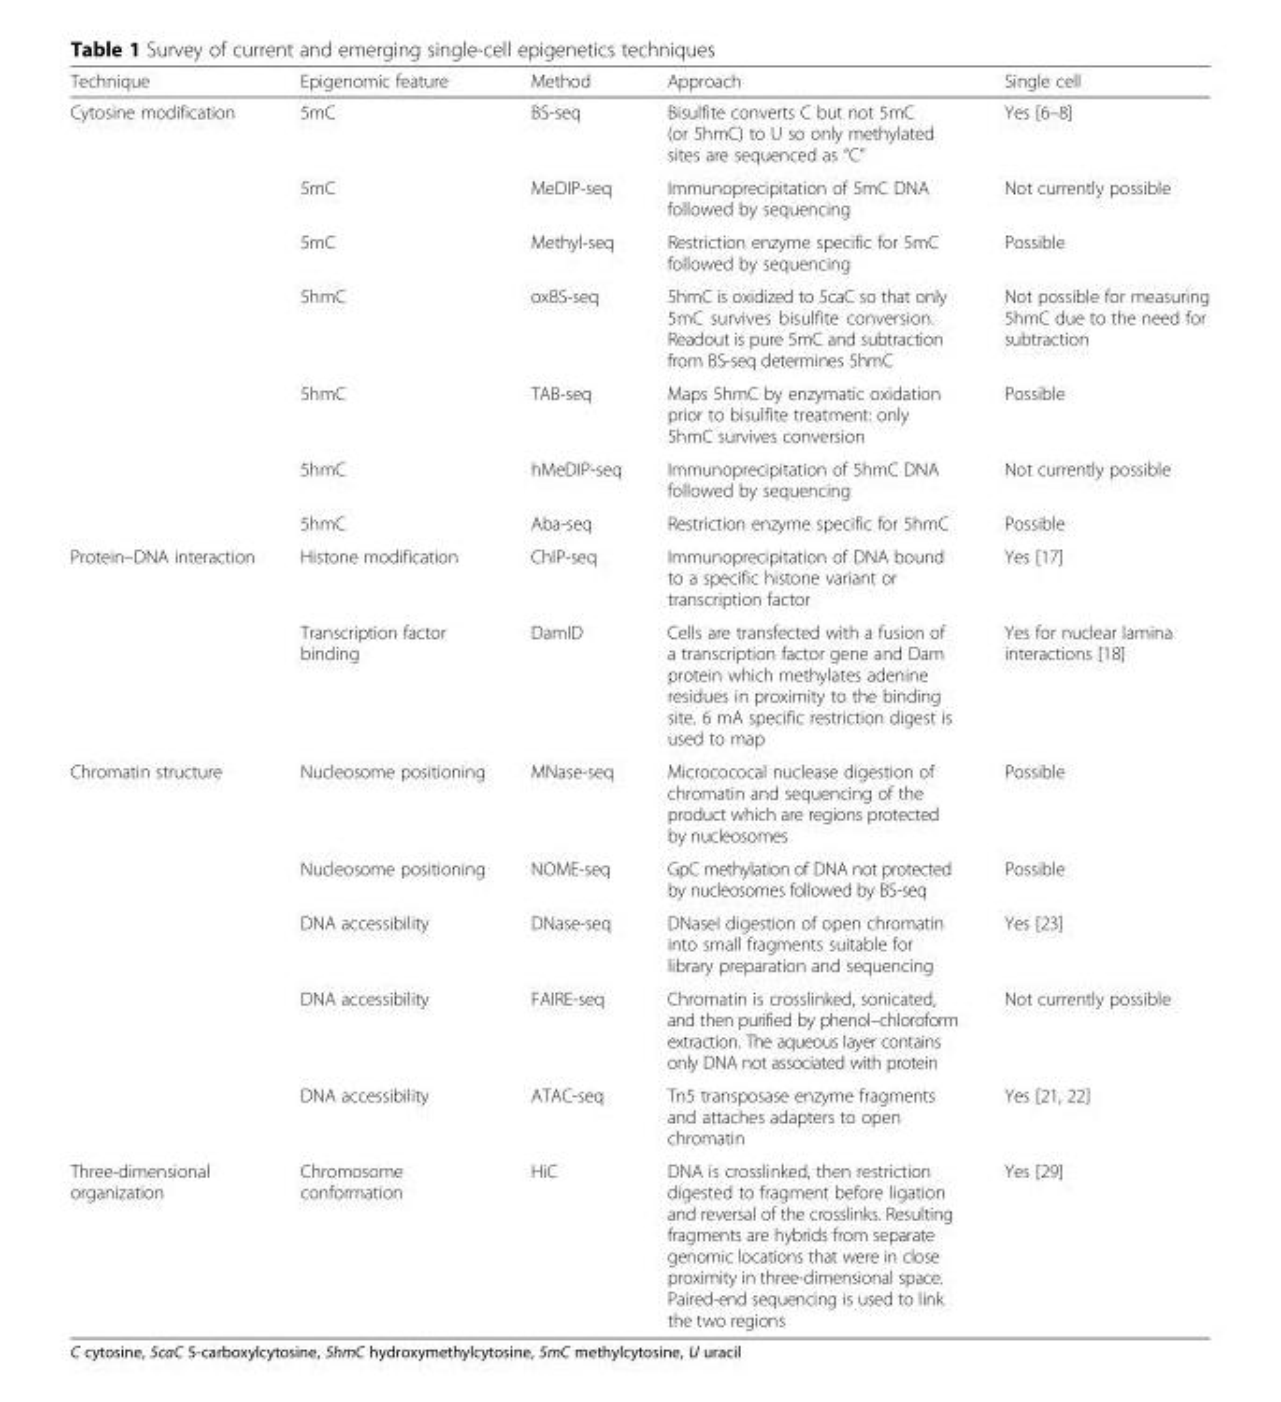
<table><thead><tr><td>Technique</td><td>Epigenomic feature</td><td>Method</td><td>Approach</td><td>Single cell</td></tr></thead><tbody><tr><td rowspan="7">Cytosine modification</td><td>5mC</td><td>BS-seq</td><td>Bisulfite converts C but not 5mC (or 5hmC) to U so only methylated sites are sequenced as “C”</td><td>Yes [6–8]</td></tr><tr><td>5mC</td><td>MeDIP-seq</td><td>Immunoprecipitation of 5mC DNA followed by sequencing</td><td>Not currently possible</td></tr><tr><td>5mC</td><td>Methyl-seq</td><td>Restriction enzyme specific for 5mC followed by sequencing</td><td>Possible</td></tr><tr><td>5hmC</td><td>oxBS-seq</td><td>5hmC is oxidized to 5caC so that only 5mC survives bisulfite conversion. Readout is pure 5mC and subtraction from BS-seq determines 5hmC</td><td>Not possible for measuring 5hmC due to the need for subtraction</td></tr><tr><td>5hmC</td><td>TAB-seq</td><td>Maps 5hmC by enzymatic oxidation prior to bisulfite treatment: only 5hmC survives conversion</td><td>Possible</td></tr><tr><td>5hmC</td><td>hMeDIP-seq</td><td>Immunoprecipitation of 5hmC DNA followed by sequencing</td><td>Not currently possible</td></tr><tr><td>5hmC</td><td>Aba-seq</td><td>Restriction enzyme specific for 5hmC</td><td>Possible</td></tr><tr><td rowspan="2">Protein–DNA interaction</td><td>Histone modification</td><td>ChIP-seq</td><td>Immunoprecipitation of DNA bound to a specific histone variant or transcription factor</td><td>Yes [17]</td></tr><tr><td>Transcription factor binding</td><td>DamID</td><td>Cells are transfected with a fusion of a transcription factor gene and Dam protein which methylates adenine residues in proximity to the binding site. 6 mA specific restriction digest is used to map</td><td>Yes for nuclear lamina interactions [18]</td></tr><tr><td rowspan="5">Chromatin structure</td><td>Nucleosome positioning</td><td>MNase-seq</td><td>Microcococal nuclease digestion of chromatin and sequencing of the product which are regions protected by nucleosomes</td><td>Possible</td></tr><tr><td>Nucleosome positioning</td><td>NOME-seq</td><td>GpC methylation of DNA not protected by nucleosomes followed by BS-seq</td><td>Possible</td></tr><tr><td>DNA accessibility</td><td>DNase-seq</td><td>DNaseI digestion of open chromatin into small fragments suitable for library preparation and sequencing</td><td>Yes [23]</td></tr><tr><td>DNA accessibility</td><td>FAIRE-seq</td><td>Chromatin is crosslinked, sonicated, and then purified by phenol–chloroform extraction. The aqueous layer contains only DNA not associated with protein</td><td>Not currently possible</td></tr><tr><td>DNA accessibility</td><td>ATAC-seq</td><td>Tn5 transposase enzyme fragments and attaches adapters to open chromatin</td><td>Yes [21, 22]</td></tr><tr><td>Three-dimensional organization</td><td>Chromosome conformation</td><td>HiC</td><td>DNA is crosslinked, then restriction digested to fragment before ligation and reversal of the crosslinks. Resulting fragments are hybrids from separate genomic locations that were in close proximity in three-dimensional space. Paired-end sequencing is used to link the two regions</td><td>Yes [29]</td></tr></tbody></table>